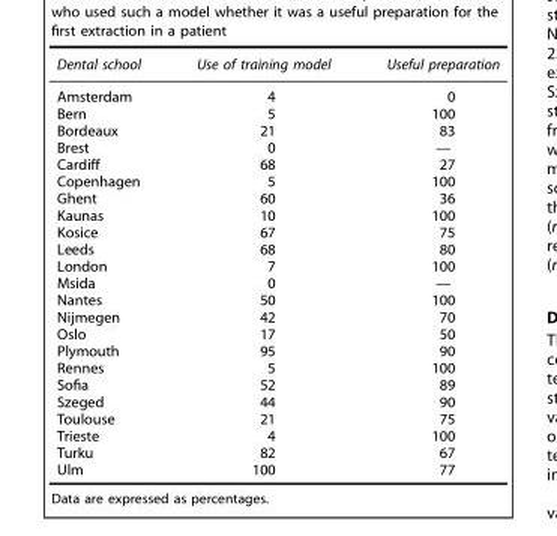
<table><thead><tr><td>Dental school</td><td>Use of training model</td><td>Useful preparation</td></tr></thead><tbody><tr><td>Amsterdam</td><td>4</td><td>0</td></tr><tr><td>Bern</td><td>5</td><td>100</td></tr><tr><td>Bordeaux</td><td>21</td><td>83</td></tr><tr><td>Brest</td><td>0</td><td>—</td></tr><tr><td>Cardiff</td><td>68</td><td>27</td></tr><tr><td>Copenhagen</td><td>5</td><td>100</td></tr><tr><td>Ghent</td><td>60</td><td>36</td></tr><tr><td>Kaunas</td><td>10</td><td>100</td></tr><tr><td>Kosice</td><td>67</td><td>75</td></tr><tr><td>Leeds</td><td>68</td><td>80</td></tr><tr><td>London</td><td>7</td><td>100</td></tr><tr><td>Msida</td><td>0</td><td>—</td></tr><tr><td>Nantes</td><td>50</td><td>100</td></tr><tr><td>Nijmegen</td><td>42</td><td>70</td></tr><tr><td>Oslo</td><td>17</td><td>50</td></tr><tr><td>Plymouth</td><td>95</td><td>90</td></tr><tr><td>Rennes</td><td>5</td><td>100</td></tr><tr><td>Sofia</td><td>52</td><td>89</td></tr><tr><td>Szeged</td><td>44</td><td>90</td></tr><tr><td>Toulouse</td><td>21</td><td>75</td></tr><tr><td>Trieste</td><td>4</td><td>100</td></tr><tr><td>Turku</td><td>82</td><td>67</td></tr><tr><td>Ulm</td><td>100</td><td>77</td></tr></tbody></table>